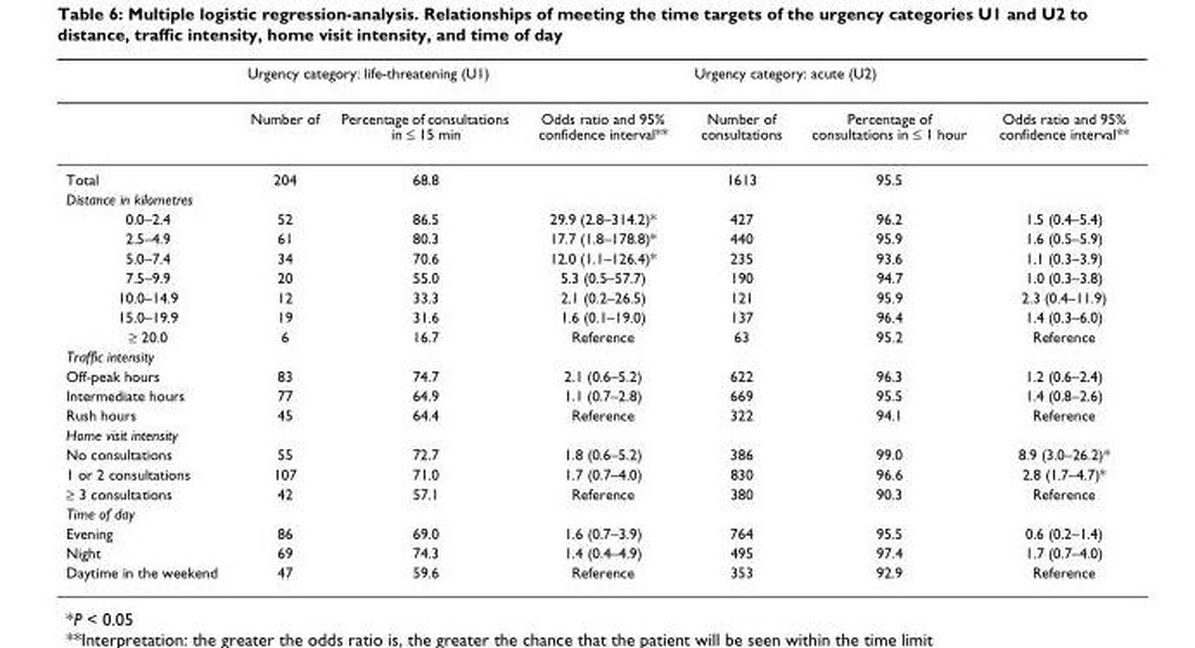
<table><thead><tr><td rowspan="2"></td><td colspan="3">Urgency category: life-threatening (U1)</td><td colspan="3">Urgency category: acute (U2)</td></tr><tr><td>Number of</td><td>Percentage of consultations in ≤ 15 min</td><td>Odds ratio and 95% confidence interval**</td><td>Number of consultations</td><td>Percentage of consultations in ≤ 1 hour</td><td>Odds ratio and 95% confidence interval**</td></tr></thead><tbody><tr><td>Total</td><td>204</td><td>68.8</td><td></td><td>1613</td><td>95.5</td><td></td></tr><tr><td colspan="7">Distance in kilometres</td></tr><tr><td>0.0–2.4</td><td>52</td><td>86.5</td><td>29.9 (2.8–314.2)*</td><td>427</td><td>96.2</td><td>1.5 (0.4–5.4)</td></tr><tr><td>2.5–4.9</td><td>61</td><td>80.3</td><td>17.7 (1.8–178.8)*</td><td>440</td><td>95.9</td><td>1.6 (0.5–5.9)</td></tr><tr><td>5.0–7.4</td><td>34</td><td>70.6</td><td>12.0 (1.1–126.4)*</td><td>235</td><td>93.6</td><td>1.1 (0.3–3.9)</td></tr><tr><td>7.5–9.9</td><td>20</td><td>55.0</td><td>5.3 (0.5–57.7)</td><td>190</td><td>94.7</td><td>1.0 (0.3–3.8)</td></tr><tr><td>10.0–14.9</td><td>12</td><td>33.3</td><td>2.1 (0.2–26.5)</td><td>121</td><td>95.9</td><td>2.3 (0.4–11.9)</td></tr><tr><td>15.0–19.9</td><td>19</td><td>31.6</td><td>1.6 (0.1–19.0)</td><td>137</td><td>96.4</td><td>1.4 (0.3–6.0)</td></tr><tr><td>≥ 20.0</td><td>6</td><td>16.7</td><td>Reference</td><td>63</td><td>95.2</td><td>Reference</td></tr><tr><td colspan="7">Traffic intensity</td></tr><tr><td>Off-peak hours</td><td>83</td><td>74.7</td><td>2.1 (0.6–5.2)</td><td>622</td><td>96.3</td><td>1.2 (0.6–2.4)</td></tr><tr><td>Intermediate hours</td><td>77</td><td>64.9</td><td>1.1 (0.7–2.8)</td><td>669</td><td>95.5</td><td>1.4 (0.8–2.6)</td></tr><tr><td>Rush hours</td><td>45</td><td>64.4</td><td>Reference</td><td>322</td><td>94.1</td><td>Reference</td></tr><tr><td colspan="7">Home visit intensity</td></tr><tr><td>No consultations</td><td>55</td><td>72.7</td><td>1.8 (0.6–5.2)</td><td>386</td><td>99.0</td><td>8.9 (3.0–26.2)*</td></tr><tr><td>1 or 2 consultations</td><td>107</td><td>71.0</td><td>1.7 (0.7–4.0)</td><td>830</td><td>96.6</td><td>2.8 (1.7–4.7)*</td></tr><tr><td>≥ 3 consultations</td><td>42</td><td>57.1</td><td>Reference</td><td>380</td><td>90.3</td><td>Reference</td></tr><tr><td colspan="7">Time of day</td></tr><tr><td>Evening</td><td>86</td><td>69.0</td><td>1.6 (0.7–3.9)</td><td>764</td><td>95.5</td><td>0.6 (0.2–1.4)</td></tr><tr><td>Night</td><td>69</td><td>74.3</td><td>1.4 (0.4–4.9)</td><td>495</td><td>97.4</td><td>1.7 (0.7–4.0)</td></tr><tr><td>Daytime in the weekend</td><td>47</td><td>59.6</td><td>Reference</td><td>353</td><td>92.9</td><td>Reference</td></tr></tbody></table>